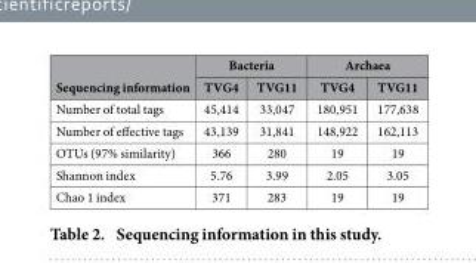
<table><thead><tr><td rowspan="2">Sequencing information</td><td colspan="2">Bacteria</td><td colspan="2">Archaea</td></tr><tr><td>TVG4</td><td>TVG11</td><td>TVG4</td><td>TVG11</td></tr></thead><tbody><tr><td>Number of total tags</td><td>45,414</td><td>33,047</td><td>180,951</td><td>177,638</td></tr><tr><td>Number of effective tags</td><td>43,139</td><td>31,841</td><td>148,922</td><td>162,113</td></tr><tr><td>OTUs (97% similarity)</td><td>366</td><td>280</td><td>19</td><td>19</td></tr><tr><td>Shannon index</td><td>5.76</td><td>3.99</td><td>2.05</td><td>3.05</td></tr><tr><td>Chao 1 index</td><td>371</td><td>283</td><td>19</td><td>19</td></tr></tbody></table>